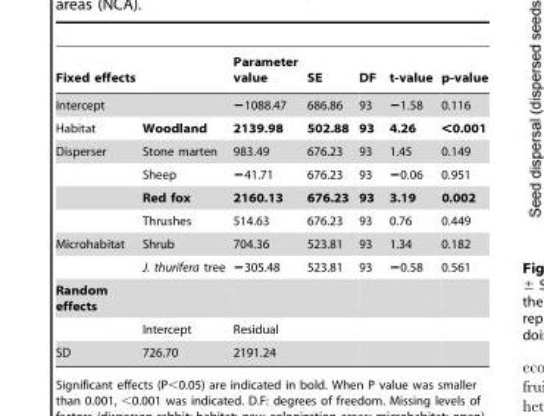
<table><thead><tr><td>Fixed effects</td><td></td><td>Parameter value</td><td>SE</td><td>DF</td><td>t-value</td><td>p-value</td></tr></thead><tbody><tr><td>Intercept</td><td></td><td>−1088.47</td><td>686.86</td><td>93</td><td>−1.58</td><td>0.116</td></tr><tr><td>Habitat</td><td>Woodland</td><td>2139.98</td><td>502.88</td><td>93</td><td>4.26</td><td>&lt;0.001</td></tr><tr><td rowspan="4">Disperser</td><td>Stone marten</td><td>983.49</td><td>676.23</td><td>93</td><td>1.45</td><td>0.149</td></tr><tr><td>Sheep</td><td>−41.71</td><td>676.23</td><td>93</td><td>−0.06</td><td>0.951</td></tr><tr><td>Red fox</td><td>2160.13</td><td>676.23</td><td>93</td><td>3.19</td><td>0.002</td></tr><tr><td>Thrushes</td><td>514.63</td><td>676.23</td><td>93</td><td>0.76</td><td>0.449</td></tr><tr><td rowspan="2">Microhabitat</td><td>Shrub</td><td>704.36</td><td>523.81</td><td>93</td><td>1.34</td><td>0.182</td></tr><tr><td>J. thurifera tree</td><td>−305.48</td><td>523.81</td><td>93</td><td>−0.58</td><td>0.561</td></tr><tr><td colspan="7">Random effects</td></tr><tr><td></td><td>Intercept</td><td>Residual</td><td></td><td></td><td></td><td></td></tr><tr><td>SD</td><td>726.70</td><td>2191.24</td><td></td><td></td><td></td><td></td></tr></tbody></table>